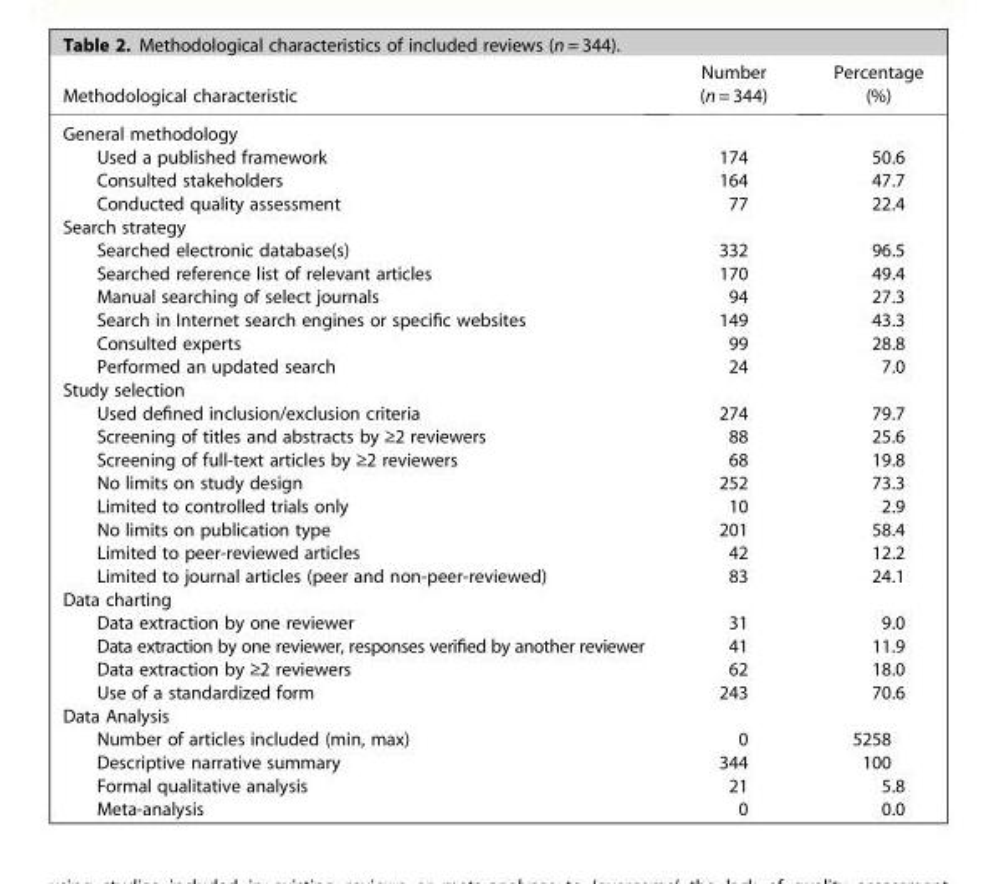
<table><thead><tr><td>Methodological characteristic</td><td>Number (n = 344)</td><td>Percentage (%)</td></tr></thead><tbody><tr><td colspan="3">General methodology</td></tr><tr><td>Used a published framework</td><td>174</td><td>50.6</td></tr><tr><td>Consulted stakeholders</td><td>164</td><td>47.7</td></tr><tr><td>Conducted quality assessment</td><td>77</td><td>22.4</td></tr><tr><td colspan="3">Search strategy</td></tr><tr><td>Searched electronic database(s)</td><td>332</td><td>96.5</td></tr><tr><td>Searched reference list of relevant articles</td><td>170</td><td>49.4</td></tr><tr><td>Manual searching of select journals</td><td>94</td><td>27.3</td></tr><tr><td>Search in Internet search engines or specific websites</td><td>149</td><td>43.3</td></tr><tr><td>Consulted experts</td><td>99</td><td>28.8</td></tr><tr><td>Performed an updated search</td><td>24</td><td>7.0</td></tr><tr><td colspan="3">Study selection</td></tr><tr><td>Used defined inclusion/exclusion criteria</td><td>274</td><td>79.7</td></tr><tr><td>Screening of titles and abstracts by ≥2 reviewers</td><td>88</td><td>25.6</td></tr><tr><td>Screening of full-text articles by ≥2 reviewers</td><td>68</td><td>19.8</td></tr><tr><td>No limits on study design</td><td>252</td><td>73.3</td></tr><tr><td>Limited to controlled trials only</td><td>10</td><td>2.9</td></tr><tr><td>No limits on publication type</td><td>201</td><td>58.4</td></tr><tr><td>Limited to peer-reviewed articles</td><td>42</td><td>12.2</td></tr><tr><td>Limited to journal articles (peer and non-peer-reviewed)</td><td>83</td><td>24.1</td></tr><tr><td colspan="3">Data charting</td></tr><tr><td>Data extraction by one reviewer</td><td>31</td><td>9.0</td></tr><tr><td>Data extraction by one reviewer, responses verified by another reviewer</td><td>41</td><td>11.9</td></tr><tr><td>Data extraction by ≥2 reviewers</td><td>62</td><td>18.0</td></tr><tr><td>Use of a standardized form</td><td>243</td><td>70.6</td></tr><tr><td colspan="3">Data Analysis</td></tr><tr><td>Number of articles included (min, max)</td><td>0</td><td>5258</td></tr><tr><td>Descriptive narrative summary</td><td>344</td><td>100</td></tr><tr><td>Formal qualitative analysis</td><td>21</td><td>5.8</td></tr><tr><td>Meta-analysis</td><td>0</td><td>0.0</td></tr></tbody></table>